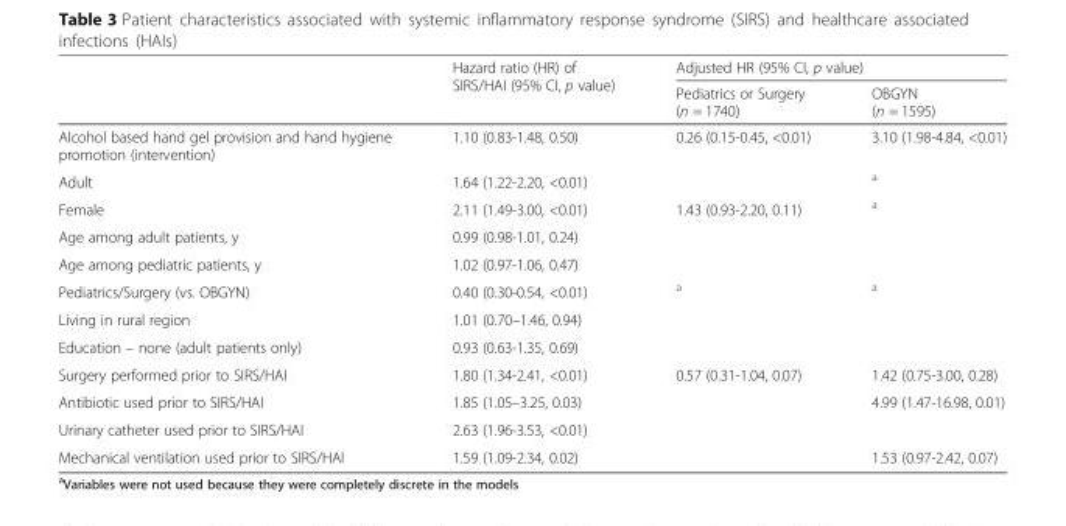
<table><thead><tr><td rowspan="2"></td><td rowspan="2">Hazard ratio (HR) of SIRS/HAI (95% CI, p value)</td><td colspan="2">Adjusted HR (95% CI, p value)</td></tr><tr><td>Pediatrics or Surgery (n = 1740)</td><td>OBGYN (n = 1595)</td></tr></thead><tbody><tr><td>Alcohol based hand gel provision and hand hygiene promotion (intervention)</td><td>1.10 (0.83-1.48, 0.50)</td><td>0.26 (0.15-0.45, &lt;0.01)</td><td>3.10 (1.98-4.84, &lt;0.01)</td></tr><tr><td>Adult</td><td>1.64 (1.22-2.20, &lt;0.01)</td><td></td><td><sup>a</sup></td></tr><tr><td>Female</td><td>2.11 (1.49-3.00, &lt;0.01)</td><td>1.43 (0.93-2.20, 0.11)</td><td><sup>a</sup></td></tr><tr><td>Age among adult patients, y</td><td>0.99 (0.98-1.01, 0.24)</td><td></td><td></td></tr><tr><td>Age among pediatric patients, y</td><td>1.02 (0.97-1.06, 0.47)</td><td></td><td></td></tr><tr><td>Pediatrics/Surgery (vs. OBGYN)</td><td>0.40 (0.30-0.54, &lt;0.01)</td><td><sup>a</sup></td><td><sup>a</sup></td></tr><tr><td>Living in rural region</td><td>1.01 (0.70–1.46, 0.94)</td><td></td><td></td></tr><tr><td>Education – none (adult patients only)</td><td>0.93 (0.63-1.35, 0.69)</td><td></td><td></td></tr><tr><td>Surgery performed prior to SIRS/HAI</td><td>1.80 (1.34-2.41, &lt;0.01)</td><td>0.57 (0.31-1.04, 0.07)</td><td>1.42 (0.75-3.00, 0.28)</td></tr><tr><td>Antibiotic used prior to SIRS/HAI</td><td>1.85 (1.05–3.25, 0.03)</td><td></td><td>4.99 (1.47-16.98, 0.01)</td></tr><tr><td>Urinary catheter used prior to SIRS/HAI</td><td>2.63 (1.96-3.53, &lt;0.01)</td><td></td><td></td></tr><tr><td>Mechanical ventilation used prior to SIRS/HAI</td><td>1.59 (1.09-2.34, 0.02)</td><td></td><td>1.53 (0.97-2.42, 0.07)</td></tr></tbody></table>